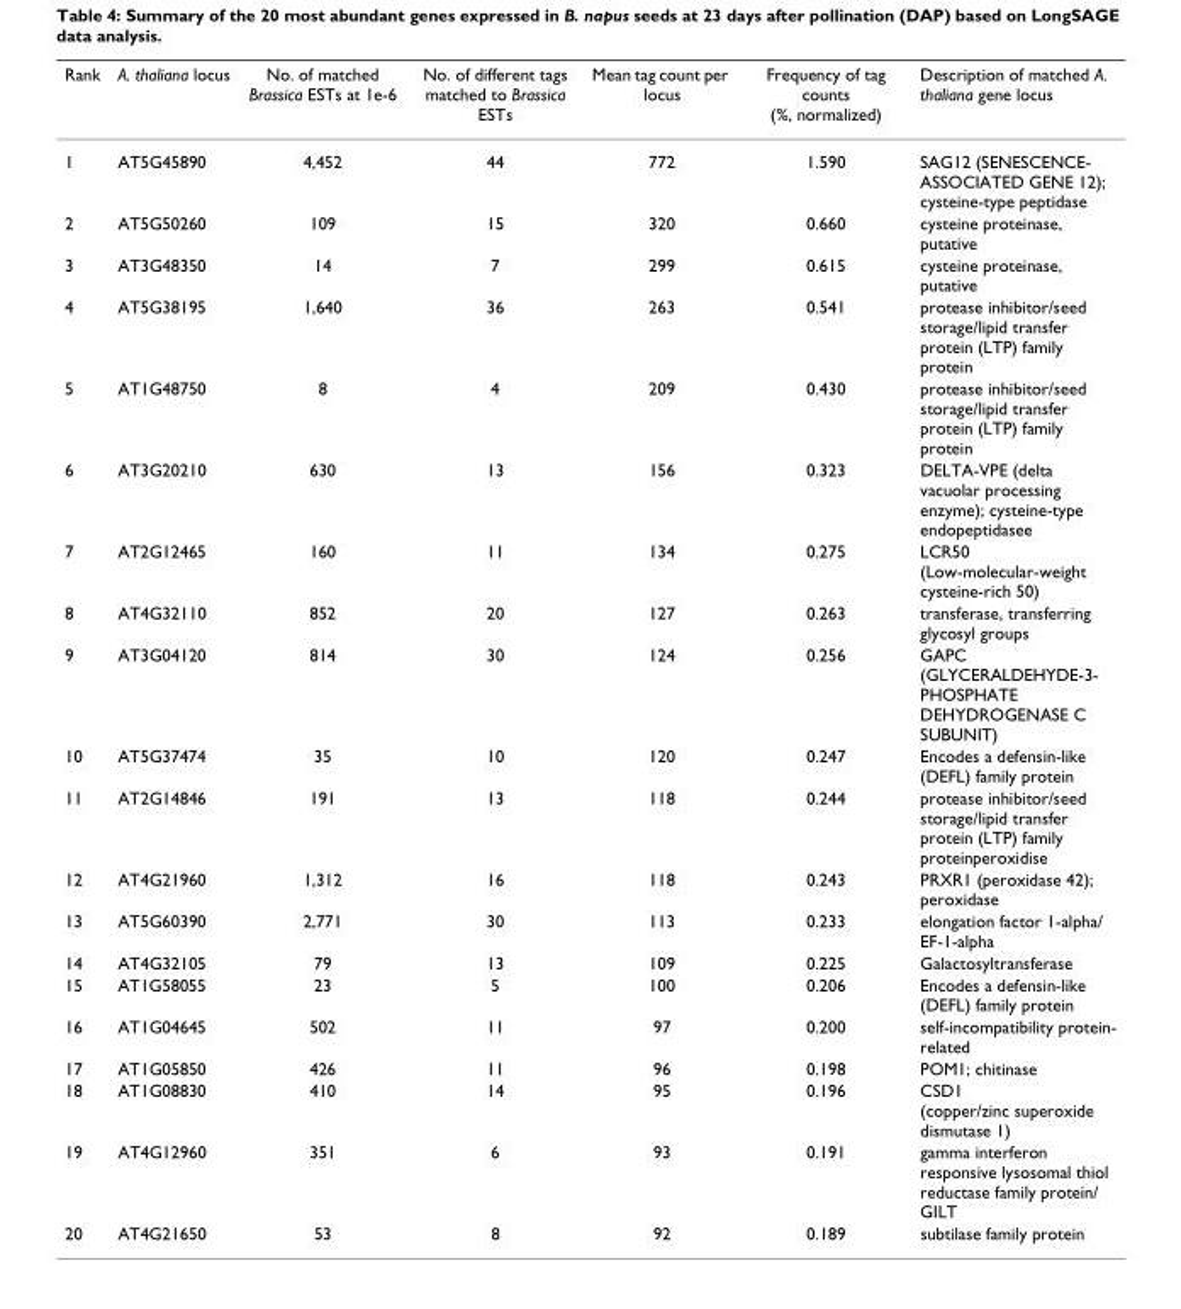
<table><thead><tr><td>Rank</td><td>A. thaliana locus</td><td>No. of matched Brassica ESTs at 1e-6</td><td>No. of different tags matched to Brassica ESTs</td><td>Mean tag count per locus</td><td>Frequency of tag counts (%, normalized)</td><td>Description of matched A. thaliana gene locus</td></tr></thead><tbody><tr><td>1</td><td>AT5G45890</td><td>4,452</td><td>44</td><td>772</td><td>1.590</td><td>SAG12 (SENESCENCE- ASSOCIATED GENE 12); cysteine-type peptidase</td></tr><tr><td>2</td><td>AT5G50260</td><td>109</td><td>15</td><td>320</td><td>0.660</td><td>cysteine proteinase, putative</td></tr><tr><td>3</td><td>AT3G48350</td><td>14</td><td>7</td><td>299</td><td>0.615</td><td>cysteine proteinase, putative</td></tr><tr><td>4</td><td>AT5G38195</td><td>1,640</td><td>36</td><td>263</td><td>0.541</td><td>protease inhibitor/seed storage/lipid transfer protein (LTP) family protein</td></tr><tr><td>5</td><td>AT1G48750</td><td>8</td><td>4</td><td>209</td><td>0.430</td><td>protease inhibitor/seed storage/lipid transfer protein (LTP) family protein</td></tr><tr><td>6</td><td>AT3G20210</td><td>630</td><td>13</td><td>156</td><td>0.323</td><td>DELTA-VPE (delta vacuolar processing enzyme); cysteine-type endopeptidasee</td></tr><tr><td>7</td><td>AT2G12465</td><td>160</td><td>11</td><td>134</td><td>0.275</td><td>LCR50 (Low-molecular-weight cysteine-rich 50)</td></tr><tr><td>8</td><td>AT4G32110</td><td>852</td><td>20</td><td>127</td><td>0.263</td><td>transferase, transferring glycosyl groups</td></tr><tr><td>9</td><td>AT3G04120</td><td>814</td><td>30</td><td>124</td><td>0.256</td><td>GAPC (GLYCERALDEHYDE-3- PHOSPHATE DEHYDROGENASE C SUBUNIT)</td></tr><tr><td>10</td><td>AT5G37474</td><td>35</td><td>10</td><td>120</td><td>0.247</td><td>Encodes a defensin-like (DEFL) family protein</td></tr><tr><td>11</td><td>AT2G14846</td><td>191</td><td>13</td><td>118</td><td>0.244</td><td>protease inhibitor/seed storage/lipid transfer protein (LTP) family proteinperoxidise</td></tr><tr><td>12</td><td>AT4G21960</td><td>1,312</td><td>16</td><td>118</td><td>0.243</td><td>PRXR1 (peroxidase 42); peroxidase</td></tr><tr><td>13</td><td>AT5G60390</td><td>2,771</td><td>30</td><td>113</td><td>0.233</td><td>elongation factor 1-alpha/ EF-1-alpha</td></tr><tr><td>14</td><td>AT4G32105</td><td>79</td><td>13</td><td>109</td><td>0.225</td><td>Galactosyltransferase</td></tr><tr><td>15</td><td>AT1G58055</td><td>23</td><td>5</td><td>100</td><td>0.206</td><td>Encodes a defensin-like (DEFL) family protein</td></tr><tr><td>16</td><td>AT1G04645</td><td>502</td><td>11</td><td>97</td><td>0.200</td><td>self-incompatibility protein- related</td></tr><tr><td>17</td><td>AT1G05850</td><td>426</td><td>11</td><td>96</td><td>0.198</td><td>POM1; chitinase</td></tr><tr><td>18</td><td>AT1G08830</td><td>410</td><td>14</td><td>95</td><td>0.196</td><td>CSD1 (copper/zinc superoxide dismutase 1)</td></tr><tr><td>19</td><td>AT4G12960</td><td>351</td><td>6</td><td>93</td><td>0.191</td><td>gamma interferon responsive lysosomal thiol reductase family protein/ GILT</td></tr><tr><td>20</td><td>AT4G21650</td><td>53</td><td>8</td><td>92</td><td>0.189</td><td>subtilase family protein</td></tr></tbody></table>